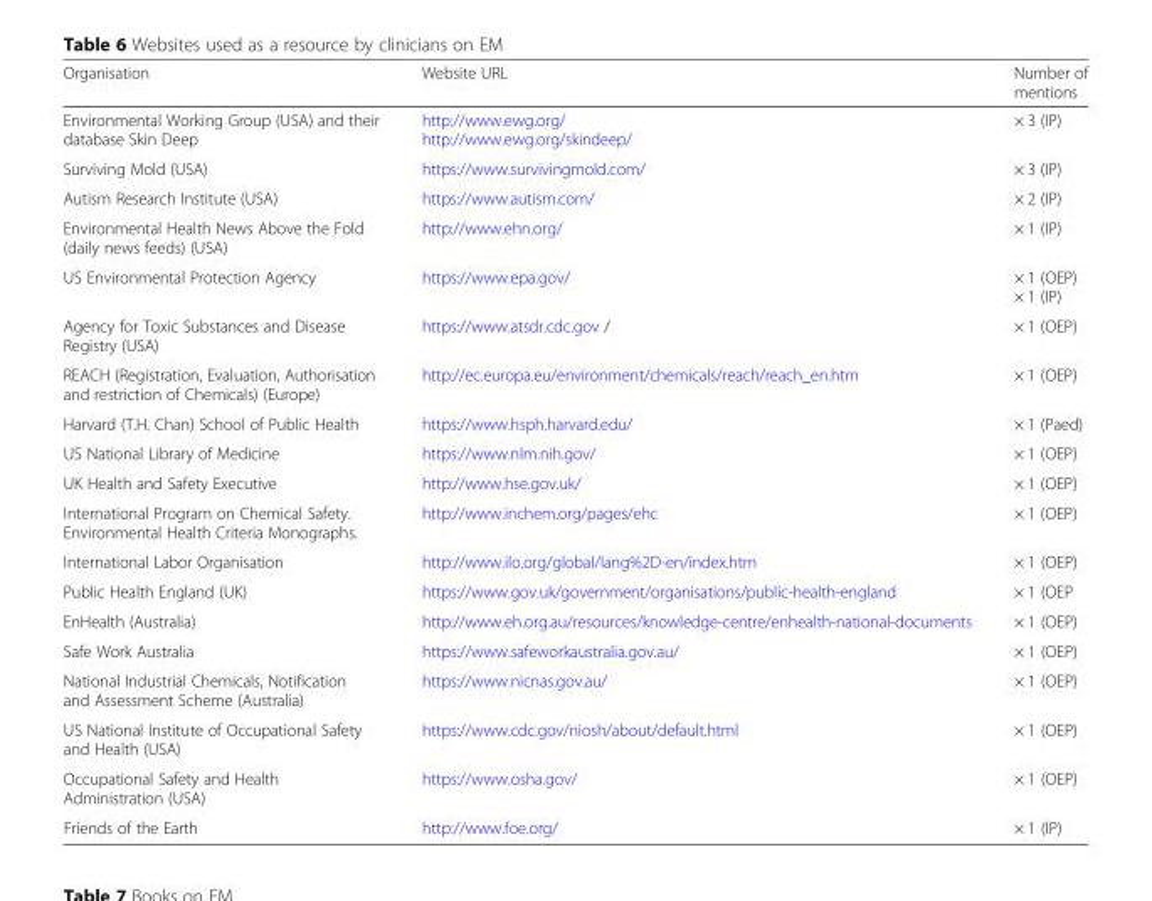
<table><thead><tr><td>Organisation</td><td>Website URL</td><td>Number of mentions</td></tr></thead><tbody><tr><td>Environmental Working Group (USA) and their database Skin Deep</td><td>http://www.ewg.org/ http://www.ewg.org/skindeep/</td><td>× 3 (IP)</td></tr><tr><td>Surviving Mold (USA)</td><td>https://www.survivingmold.com/</td><td>× 3 (IP)</td></tr><tr><td>Autism Research Institute (USA)</td><td>https://www.autism.com/</td><td>× 2 (IP)</td></tr><tr><td>Environmental Health News Above the Fold (daily news feeds) (USA)</td><td>http://www.ehn.org/</td><td>× 1 (IP)</td></tr><tr><td>US Environmental Protection Agency</td><td>https://www.epa.gov/</td><td>× 1 (OEP) × 1 (IP)</td></tr><tr><td>Agency for Toxic Substances and Disease Registry (USA)</td><td>https://www.atsdr.cdc.gov /</td><td>× 1 (OEP)</td></tr><tr><td>REACH (Registration, Evaluation, Authorisation and restriction of Chemicals) (Europe)</td><td>http://ec.europa.eu/environment/chemicals/reach/reach_en.htm</td><td>× 1 (OEP)</td></tr><tr><td>Harvard (T.H. Chan) School of Public Health</td><td>https://www.hsph.harvard.edu/</td><td>× 1 (Paed)</td></tr><tr><td>US National Library of Medicine</td><td>https://www.nlm.nih.gov/</td><td>× 1 (OEP)</td></tr><tr><td>UK Health and Safety Executive</td><td>http://www.hse.gov.uk/</td><td>× 1 (OEP)</td></tr><tr><td>International Program on Chemical Safety. Environmental Health Criteria Monographs.</td><td>http://www.inchem.org/pages/ehc</td><td>× 1 (OEP)</td></tr><tr><td>International Labor Organisation</td><td>http://www.ilo.org/global/lang%2D-en/index.htm</td><td>× 1 (OEP)</td></tr><tr><td>Public Health England (UK)</td><td>https://www.gov.uk/government/organisations/public-health-england</td><td>× 1 (OEP</td></tr><tr><td>EnHealth (Australia)</td><td>http://www.eh.org.au/resources/knowledge-centre/enhealth-national-documents</td><td>× 1 (OEP)</td></tr><tr><td>Safe Work Australia</td><td>https://www.safeworkaustralia.gov.au/</td><td>× 1 (OEP)</td></tr><tr><td>National Industrial Chemicals, Notification and Assessment Scheme (Australia)</td><td>https://www.nicnas.gov.au/</td><td>× 1 (OEP)</td></tr><tr><td>US National Institute of Occupational Safety and Health (USA)</td><td>https://www.cdc.gov/niosh/about/default.html</td><td>× 1 (OEP)</td></tr><tr><td>Occupational Safety and Health Administration (USA)</td><td>https://www.osha.gov/</td><td>× 1 (OEP)</td></tr><tr><td>Friends of the Earth</td><td>http://www.foe.org/</td><td>× 1 (IP)</td></tr></tbody></table>